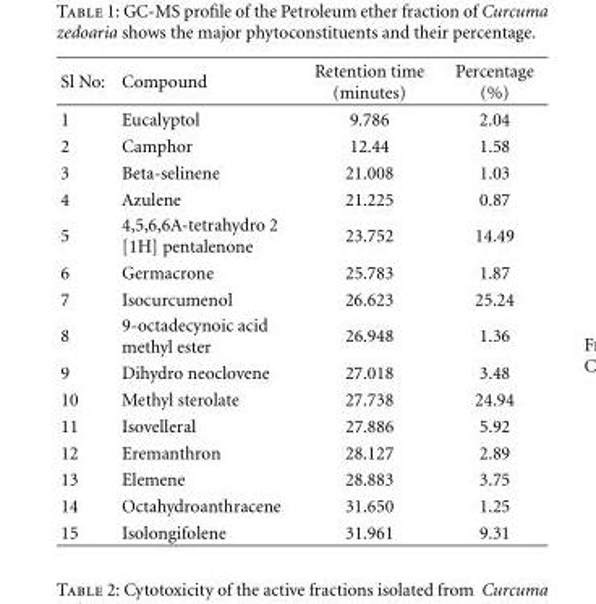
<table><thead><tr><td>Sl No:</td><td>Compound</td><td>Retention time (minutes)</td><td>Percentage (%)</td></tr></thead><tbody><tr><td>1</td><td>Eucalyptol</td><td>9.786</td><td>2.04</td></tr><tr><td>2</td><td>Camphor</td><td>12.44</td><td>1.58</td></tr><tr><td>3</td><td>Beta-selinene</td><td>21.008</td><td>1.03</td></tr><tr><td>4</td><td>Azulene</td><td>21.225</td><td>0.87</td></tr><tr><td>5</td><td>4,5,6,6A-tetrahydro 2 [1H] pentalenone</td><td>23.752</td><td>14.49</td></tr><tr><td>6</td><td>Germacrone</td><td>25.783</td><td>1.87</td></tr><tr><td>7</td><td>Isocurcumenol</td><td>26.623</td><td>25.24</td></tr><tr><td>8</td><td>9-octadecynoic acid methyl ester</td><td>26.948</td><td>1.36</td></tr><tr><td>9</td><td>Dihydro neoclovene</td><td>27.018</td><td>3.48</td></tr><tr><td>10</td><td>Methyl sterolate</td><td>27.738</td><td>24.94</td></tr><tr><td>11</td><td>Isovelleral</td><td>27.886</td><td>5.92</td></tr><tr><td>12</td><td>Eremanthron</td><td>28.127</td><td>2.89</td></tr><tr><td>13</td><td>Elemene</td><td>28.883</td><td>3.75</td></tr><tr><td>14</td><td>Octahydroanthracene</td><td>31.650</td><td>1.25</td></tr><tr><td>15</td><td>Isolongifolene</td><td>31.961</td><td>9.31</td></tr></tbody></table>